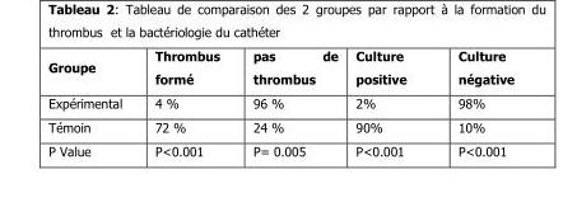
<table><thead><tr><td>Groupe</td><td>Thrombus formé</td><td>pas de thrombus</td><td>Culture positive</td><td>Culture négative</td></tr></thead><tbody><tr><td>Expérimental</td><td>4 %</td><td>96 %</td><td>2%</td><td>98%</td></tr><tr><td>Témoin</td><td>72 %</td><td>24 %</td><td>90%</td><td>10%</td></tr><tr><td>P Value</td><td>P&lt;0.001</td><td>P= 0.005</td><td>P&lt;0.001</td><td>P&lt;0.001</td></tr></tbody></table>